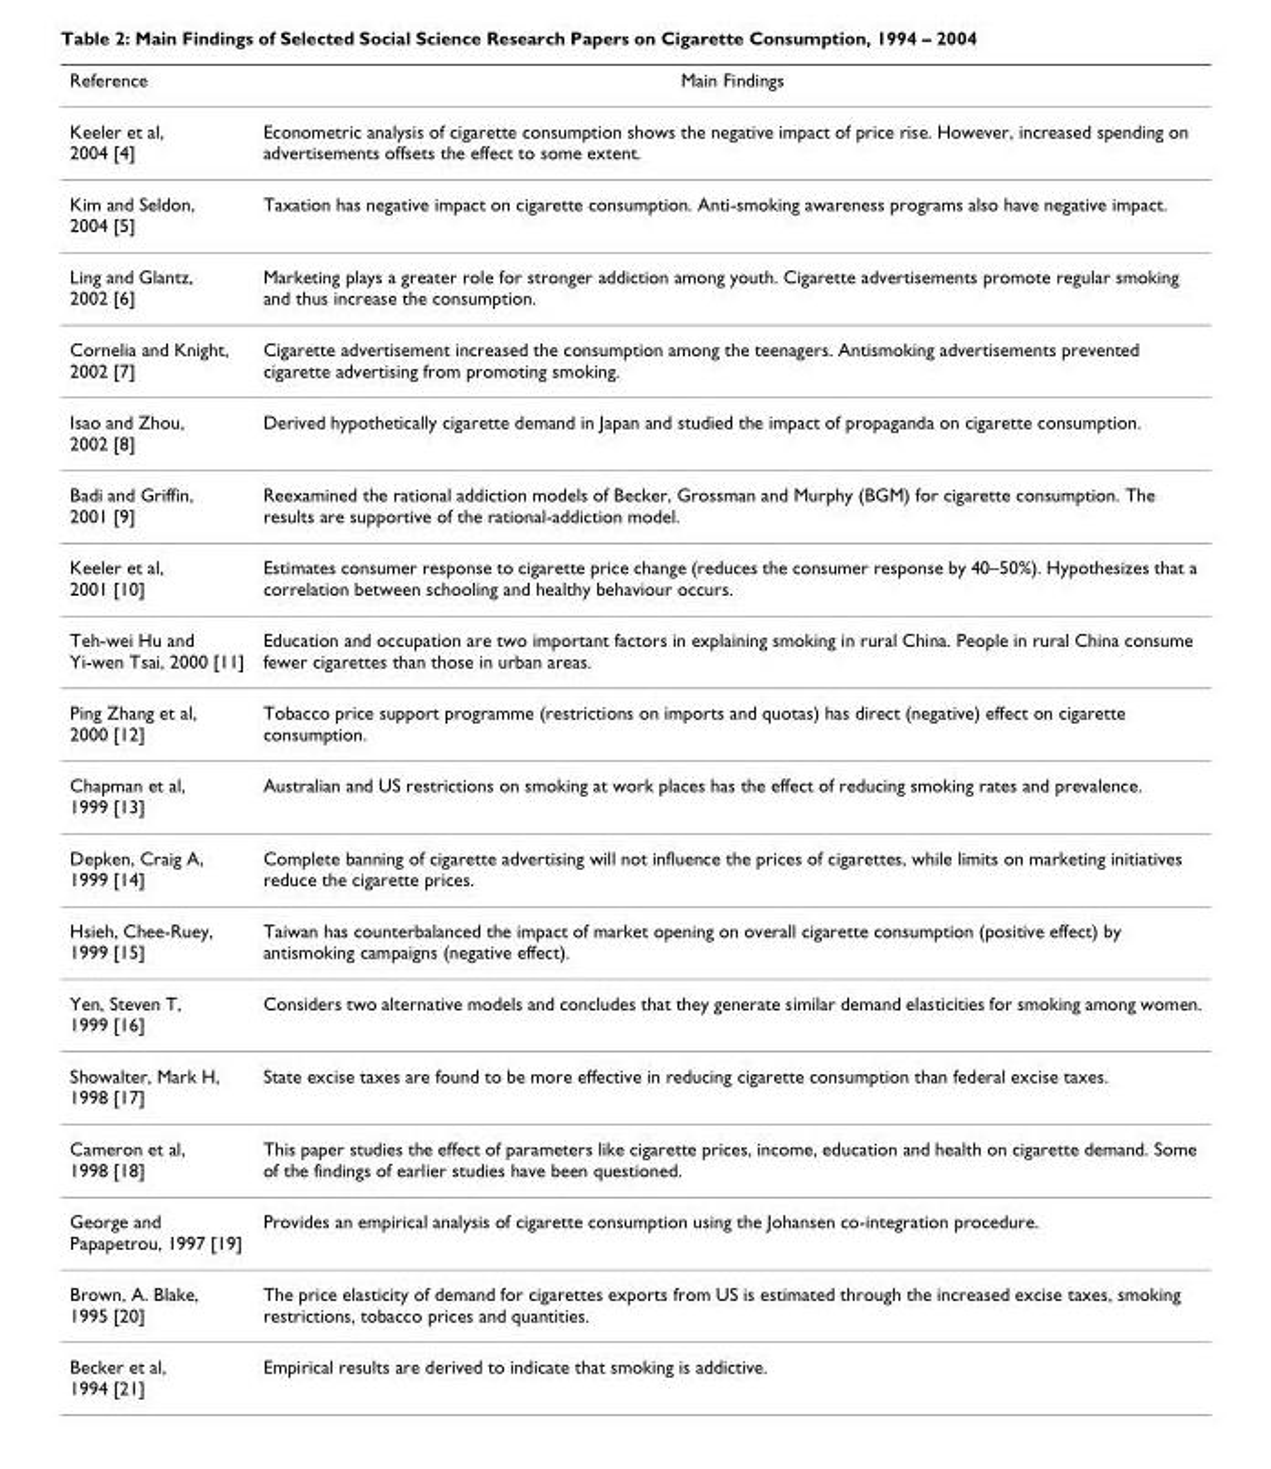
<table><thead><tr><td>Reference</td><td>Main Findings</td></tr></thead><tbody><tr><td>Keeler et al, 2004 [4]</td><td>Econometric analysis of cigarette consumption shows the negative impact of price rise. However, increased spending on advertisements offsets the effect to some extent.</td></tr><tr><td>Kim and Seldon, 2004 [5]</td><td>Taxation has negative impact on cigarette consumption. Anti-smoking awareness programs also have negative impact.</td></tr><tr><td>Ling and Glantz, 2002 [6]</td><td>Marketing plays a greater role for stronger addiction among youth. Cigarette advertisements promote regular smoking and thus increase the consumption.</td></tr><tr><td>Cornelia and Knight, 2002 [7]</td><td>Cigarette advertisement increased the consumption among the teenagers. Antismoking advertisements prevented cigarette advertising from promoting smoking.</td></tr><tr><td>Isao and Zhou, 2002 [8]</td><td>Derived hypothetically cigarette demand in Japan and studied the impact of propaganda on cigarette consumption.</td></tr><tr><td>Badi and Griffin, 2001 [9]</td><td>Reexamined the rational addiction models of Becker, Grossman and Murphy (BGM) for cigarette consumption. The results are supportive of the rational-addiction model.</td></tr><tr><td>Keeler et al, 2001 [10]</td><td>Estimates consumer response to cigarette price change (reduces the consumer response by 40–50%). Hypothesizes that a correlation between schooling and healthy behaviour occurs.</td></tr><tr><td>Teh-wei Hu and Yi-wen Tsai, 2000 [11]</td><td>Education and occupation are two important factors in explaining smoking in rural China. People in rural China consume fewer cigarettes than those in urban areas.</td></tr><tr><td>Ping Zhang et al, 2000 [12]</td><td>Tobacco price support programme (restrictions on imports and quotas) has direct (negative) effect on cigarette consumption.</td></tr><tr><td>Chapman et al, 1999 [13]</td><td>Australian and US restrictions on smoking at work places has the effect of reducing smoking rates and prevalence.</td></tr><tr><td>Depken, Craig A, 1999 [14]</td><td>Complete banning of cigarette advertising will not influence the prices of cigarettes, while limits on marketing initiatives reduce the cigarette prices.</td></tr><tr><td>Hsieh, Chee-Ruey, 1999 [15]</td><td>Taiwan has counterbalanced the impact of market opening on overall cigarette consumption (positive effect) by antismoking campaigns (negative effect).</td></tr><tr><td>Yen, Steven T, 1999 [16]</td><td>Considers two alternative models and concludes that they generate similar demand elasticities for smoking among women.</td></tr><tr><td>Showalter, Mark H, 1998 [17]</td><td>State excise taxes are found to be more effective in reducing cigarette consumption than federal excise taxes.</td></tr><tr><td>Cameron et al, 1998 [18]</td><td>This paper studies the effect of parameters like cigarette prices, income, education and health on cigarette demand. Some of the findings of earlier studies have been questioned.</td></tr><tr><td>George and Papapetrou, 1997 [19]</td><td>Provides an empirical analysis of cigarette consumption using the Johansen co-integration procedure.</td></tr><tr><td>Brown, A. Blake, 1995 [20]</td><td>The price elasticity of demand for cigarettes exports from US is estimated through the increased excise taxes, smoking restrictions, tobacco prices and quantities.</td></tr><tr><td>Becker et al, 1994 [21]</td><td>Empirical results are derived to indicate that smoking is addictive.</td></tr></tbody></table>